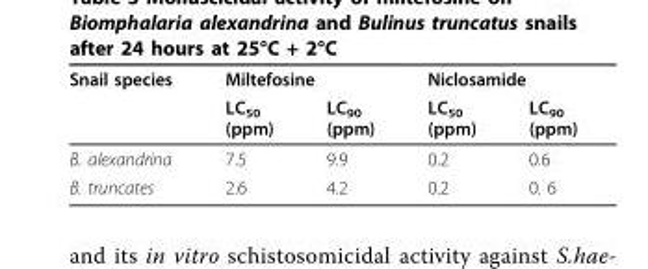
<table><thead><tr><td rowspan="2">Snail species</td><td colspan="2">Miltefosine</td><td colspan="2">Niclosamide</td></tr><tr><td>LC<sub>50</sub> (ppm)</td><td>LC<sub>90</sub> (ppm)</td><td>LC<sub>50</sub> (ppm)</td><td>LC<sub>90</sub> (ppm)</td></tr></thead><tbody><tr><td>B. alexandrina</td><td>7.5</td><td>9.9</td><td>0.2</td><td>0.6</td></tr><tr><td>B. truncates</td><td>2.6</td><td>4.2</td><td>0.2</td><td>0. 6</td></tr></tbody></table>